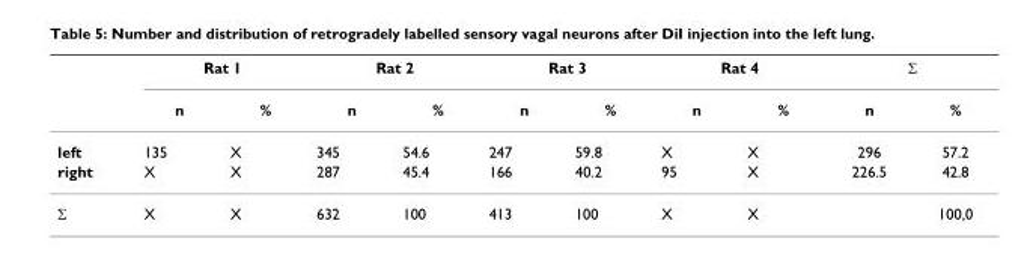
<table><thead><tr><td rowspan="2"></td><td colspan="2">Rat 1</td><td colspan="2">Rat 2</td><td colspan="2">Rat 3</td><td colspan="2">Rat 4</td><td colspan="2">Σ</td></tr><tr><td>n</td><td>%</td><td>n</td><td>%</td><td>n</td><td>%</td><td>n</td><td>%</td><td>n</td><td>%</td></tr></thead><tbody><tr><td>left</td><td>135</td><td>X</td><td>345</td><td>54.6</td><td>247</td><td>59.8</td><td>X</td><td>X</td><td>296</td><td>57.2</td></tr><tr><td>right</td><td>X</td><td>X</td><td>287</td><td>45.4</td><td>166</td><td>40.2</td><td>95</td><td>X</td><td>226.5</td><td>42.8</td></tr><tr><td>Σ</td><td>X</td><td>X</td><td>632</td><td>100</td><td>413</td><td>100</td><td>X</td><td>X</td><td></td><td>100,0</td></tr></tbody></table>